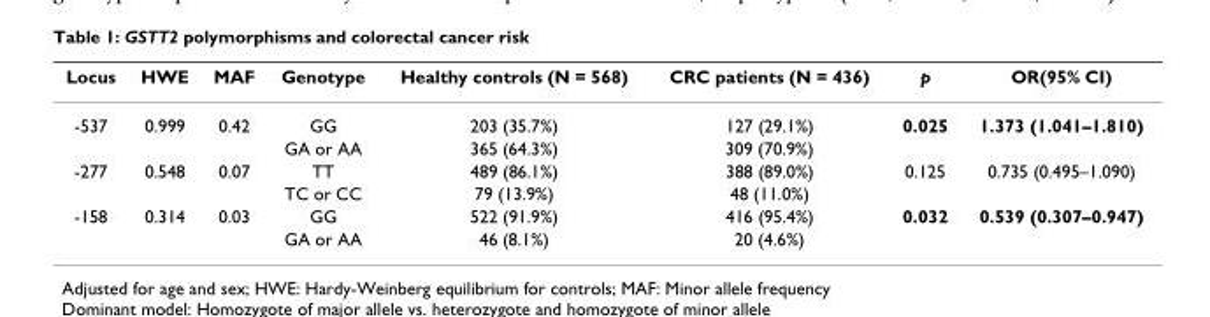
<table><thead><tr><td>Locus</td><td>HWE</td><td>MAF</td><td>Genotype</td><td>Healthy controls (N = 568)</td><td>CRC patients (N = 436)</td><td>p</td><td>OR(95% CI)</td></tr></thead><tbody><tr><td rowspan="2">-537</td><td>0.999</td><td>0.42</td><td>GG</td><td>203 (35.7%)</td><td>127 (29.1%)</td><td>0.025</td><td>1.373 (1.041–1.810)</td></tr><tr><td></td><td></td><td>GA or AA</td><td>365 (64.3%)</td><td>309 (70.9%)</td><td></td><td></td></tr><tr><td rowspan="2">-277</td><td>0.548</td><td>0.07</td><td>TT</td><td>489 (86.1%)</td><td>388 (89.0%)</td><td>0.125</td><td>0.735 (0.495–1.090)</td></tr><tr><td></td><td></td><td>TC or CC</td><td>79 (13.9%)</td><td>48 (11.0%)</td><td></td><td></td></tr><tr><td rowspan="2">-158</td><td>0.314</td><td>0.03</td><td>GG</td><td>522 (91.9%)</td><td>416 (95.4%)</td><td>0.032</td><td>0.539 (0.307–0.947)</td></tr><tr><td></td><td></td><td>GA or AA</td><td>46 (8.1%)</td><td>20 (4.6%)</td><td></td><td></td></tr></tbody></table>